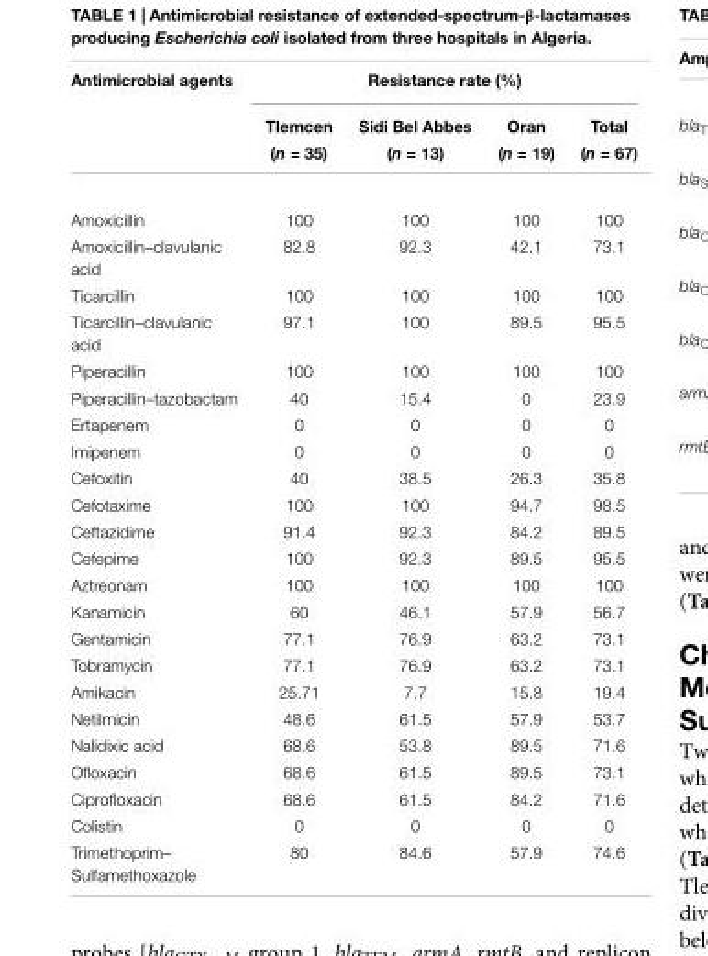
<table><thead><tr><td rowspan="3">Antimicrobial agents</td><td colspan="4">Resistance rate (%)</td></tr><tr><td rowspan="2">Tlemcen (n = 35)</td><td rowspan="2">Sidi Bel Abbes (n = 13)</td><td rowspan="2">Oran (n = 19)</td><td rowspan="2">Total (n = 67)</td></tr><tr></tr></thead><tbody><tr><td>Amoxicillin</td><td>100</td><td>100</td><td>100</td><td>100</td></tr><tr><td>Amoxicillin–clavulanic acid</td><td>82.8</td><td>92.3</td><td>42.1</td><td>73.1</td></tr><tr><td>Ticarcillin</td><td>100</td><td>100</td><td>100</td><td>100</td></tr><tr><td>Ticarcillin–clavulanic acid</td><td>97.1</td><td>100</td><td>89.5</td><td>95.5</td></tr><tr><td>Piperacillin</td><td>100</td><td>100</td><td>100</td><td>100</td></tr><tr><td>Piperacillin–tazobactam</td><td>40</td><td>15.4</td><td>0</td><td>23.9</td></tr><tr><td>Ertapenem</td><td>0</td><td>0</td><td>0</td><td>0</td></tr><tr><td>Imipenem</td><td>0</td><td>0</td><td>0</td><td>0</td></tr><tr><td>Cefoxitin</td><td>40</td><td>38.5</td><td>26.3</td><td>35.8</td></tr><tr><td>Cefotaxime</td><td>100</td><td>100</td><td>94.7</td><td>98.5</td></tr><tr><td>Ceftazidime</td><td>91.4</td><td>92.3</td><td>84.2</td><td>89.5</td></tr><tr><td>Cefepime</td><td>100</td><td>92.3</td><td>89.5</td><td>95.5</td></tr><tr><td>Aztreonam</td><td>100</td><td>100</td><td>100</td><td>100</td></tr><tr><td>Kanamicin</td><td>60</td><td>46.1</td><td>57.9</td><td>56.7</td></tr><tr><td>Gentamicin</td><td>77.1</td><td>76.9</td><td>63.2</td><td>73.1</td></tr><tr><td>Tobramycin</td><td>77.1</td><td>76.9</td><td>63.2</td><td>73.1</td></tr><tr><td>Amikacin</td><td>25.71</td><td>7.7</td><td>15.8</td><td>19.4</td></tr><tr><td>Netilmicin</td><td>48.6</td><td>61.5</td><td>57.9</td><td>53.7</td></tr><tr><td>Nalidixic acid</td><td>68.6</td><td>53.8</td><td>89.5</td><td>71.6</td></tr><tr><td>Ofloxacin</td><td>68.6</td><td>61.5</td><td>89.5</td><td>73.1</td></tr><tr><td>Ciprofloxacin</td><td>68.6</td><td>61.5</td><td>84.2</td><td>71.6</td></tr><tr><td>Colistin</td><td>0</td><td>0</td><td>0</td><td>0</td></tr><tr><td>Trimethoprim– Sulfamethoxazole</td><td>80</td><td>84.6</td><td>57.9</td><td>74.6</td></tr></tbody></table>